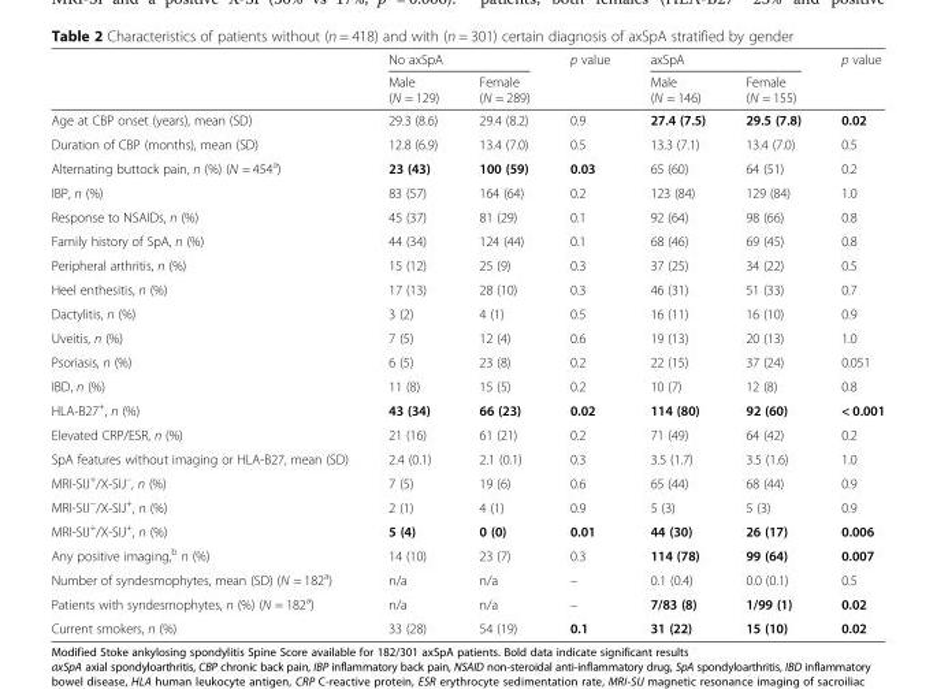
<table><thead><tr><td rowspan="2"></td><td colspan="2">No axSpA</td><td rowspan="2">p value</td><td colspan="2">axSpA</td><td rowspan="2">p value</td></tr><tr><td>Male (N = 129)</td><td>Female (N = 289)</td><td>Male (N = 146)</td><td>Female (N = 155)</td></tr></thead><tbody><tr><td>Age at CBP onset (years), mean (SD)</td><td>29.3 (8.6)</td><td>29.4 (8.2)</td><td>0.9</td><td>27.4 (7.5)</td><td>29.5 (7.8)</td><td>0.02</td></tr><tr><td>Duration of CBP (months), mean (SD)</td><td>12.8 (6.9)</td><td>13.4 (7.0)</td><td>0.5</td><td>13.3 (7.1)</td><td>13.4 (7.0)</td><td>0.5</td></tr><tr><td>Alternating buttock pain, n (%) (N = 454<sup>a</sup>)</td><td>23 (43)</td><td>100 (59)</td><td>0.03</td><td>65 (60)</td><td>64 (51)</td><td>0.2</td></tr><tr><td>IBP, n (%)</td><td>83 (57)</td><td>164 (64)</td><td>0.2</td><td>123 (84)</td><td>129 (84)</td><td>1.0</td></tr><tr><td>Response to NSAIDs, n (%)</td><td>45 (37)</td><td>81 (29)</td><td>0.1</td><td>92 (64)</td><td>98 (66)</td><td>0.8</td></tr><tr><td>Family history of SpA, n (%)</td><td>44 (34)</td><td>124 (44)</td><td>0.1</td><td>68 (46)</td><td>69 (45)</td><td>0.8</td></tr><tr><td>Peripheral arthritis, n (%)</td><td>15 (12)</td><td>25 (9)</td><td>0.3</td><td>37 (25)</td><td>34 (22)</td><td>0.5</td></tr><tr><td>Heel enthesitis, n (%)</td><td>17 (13)</td><td>28 (10)</td><td>0.3</td><td>46 (31)</td><td>51 (33)</td><td>0.7</td></tr><tr><td>Dactylitis, n (%)</td><td>3 (2)</td><td>4 (1)</td><td>0.5</td><td>16 (11)</td><td>16 (10)</td><td>0.9</td></tr><tr><td>Uveitis, n (%)</td><td>7 (5)</td><td>12 (4)</td><td>0.6</td><td>19 (13)</td><td>20 (13)</td><td>1.0</td></tr><tr><td>Psoriasis, n (%)</td><td>6 (5)</td><td>23 (8)</td><td>0.2</td><td>22 (15)</td><td>37 (24)</td><td>0.051</td></tr><tr><td>IBD, n (%)</td><td>11 (8)</td><td>15 (5)</td><td>0.2</td><td>10 (7)</td><td>12 (8)</td><td>0.8</td></tr><tr><td>HLA-B27<sup>+</sup>, n (%)</td><td>43 (34)</td><td>66 (23)</td><td>0.02</td><td>114 (80)</td><td>92 (60)</td><td>&lt; 0.001</td></tr><tr><td>Elevated CRP/ESR, n (%)</td><td>21 (16)</td><td>61 (21)</td><td>0.2</td><td>71 (49)</td><td>64 (42)</td><td>0.2</td></tr><tr><td>SpA features without imaging or HLA-B27, mean (SD)</td><td>2.4 (0.1)</td><td>2.1 (0.1)</td><td>0.3</td><td>3.5 (1.7)</td><td>3.5 (1.6)</td><td>1.0</td></tr><tr><td>MRI-SIJ<sup>+</sup>/X-SIJ<sup>–</sup>, n (%)</td><td>7 (5)</td><td>19 (6)</td><td>0.6</td><td>65 (44)</td><td>68 (44)</td><td>0.9</td></tr><tr><td>MRI-SIJ<sup>−</sup>/X-SIJ<sup>+</sup>, n (%)</td><td>2 (1)</td><td>4 (1)</td><td>0.9</td><td>5 (3)</td><td>5 (3)</td><td>0.9</td></tr><tr><td>MRI-SIJ<sup>+</sup>/X-SIJ<sup>+</sup>, n (%)</td><td>5 (4)</td><td>0 (0)</td><td>0.01</td><td>44 (30)</td><td>26 (17)</td><td>0.006</td></tr><tr><td>Any positive imaging,<sup>b</sup> n (%)</td><td>14 (10)</td><td>23 (7)</td><td>0.3</td><td>114 (78)</td><td>99 (64)</td><td>0.007</td></tr><tr><td>Number of syndesmophytes, mean (SD) (N = 182<sup>a</sup>)</td><td>n/a</td><td>n/a</td><td>–</td><td>0.1 (0.4)</td><td>0.0 (0.1)</td><td>0.5</td></tr><tr><td>Patients with syndesmophytes, n (%) (N = 182<sup>a</sup>)</td><td>n/a</td><td>n/a</td><td>–</td><td>7/83 (8)</td><td>1/99 (1)</td><td>0.02</td></tr><tr><td>Current smokers, n (%)</td><td>33 (28)</td><td>54 (19)</td><td>0.1</td><td>31 (22)</td><td>15 (10)</td><td>0.02</td></tr></tbody></table>